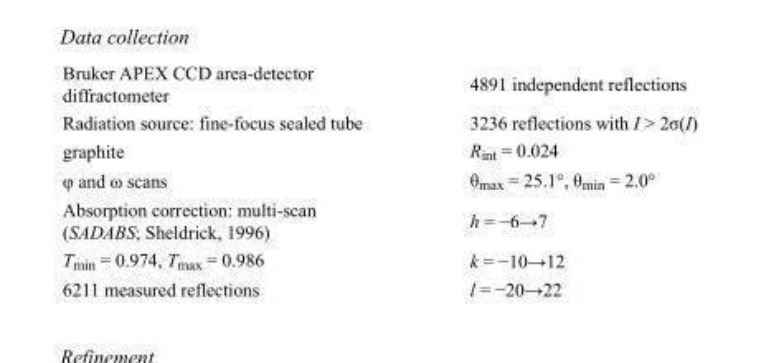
<table><tbody><tr><td>Bruker APEX CCD area-detector diffractometer</td><td>4891 independent reflections</td></tr><tr><td>Radiation source: fine-focus sealed tube</td><td>3236 reflections with I &gt; 2σ(I)</td></tr><tr><td>graphite</td><td>R<sub>int</sub> = 0.024</td></tr><tr><td>φ and ω scans</td><td>θ<sub>max</sub> = 25.1°, θ<sub>min</sub> = 2.0°</td></tr><tr><td>Absorption correction: multi-scan (SADABS; Sheldrick, 1996)</td><td>h = −6→7</td></tr><tr><td>T<sub>min</sub> = 0.974, T<sub>max</sub> = 0.986</td><td>k = −10→12</td></tr><tr><td>6211 measured reflections</td><td>l = −20→22</td></tr></tbody></table>